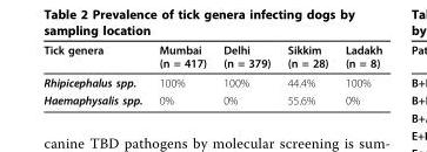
<table><thead><tr><td>Tick genera</td><td>Mumbai (n = 417)</td><td>Delhi (n = 379)</td><td>Sikkim (n = 28)</td><td>Ladakh (n = 8)</td></tr></thead><tbody><tr><td>Rhipicephalus spp.</td><td>100%</td><td>100%</td><td>44.4%</td><td>100%</td></tr><tr><td>Haemaphysalis spp.</td><td>0%</td><td>0%</td><td>55.6%</td><td>0%</td></tr></tbody></table>